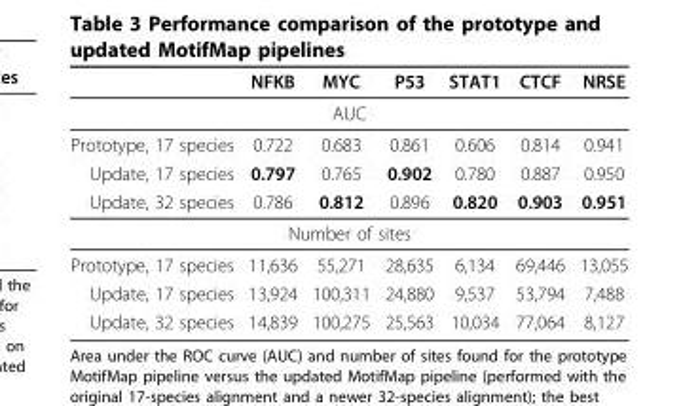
<table><thead><tr><td></td><td>NFKB</td><td>MYC</td><td>P53</td><td>STAT1</td><td>CTCF</td><td>NRSE</td></tr></thead><tbody><tr><td colspan="7">AUC</td></tr><tr><td>Prototype, 17 species</td><td>0.722</td><td>0.683</td><td>0.861</td><td>0.606</td><td>0.814</td><td>0.941</td></tr><tr><td>Update, 17 species</td><td>0.797</td><td>0.765</td><td>0.902</td><td>0.780</td><td>0.887</td><td>0.950</td></tr><tr><td>Update, 32 species</td><td>0.786</td><td>0.812</td><td>0.896</td><td>0.820</td><td>0.903</td><td>0.951</td></tr><tr><td colspan="7">Number of sites</td></tr><tr><td>Prototype, 17 species</td><td>11,636</td><td>55,271</td><td>28,635</td><td>6,134</td><td>69,446</td><td>13,055</td></tr><tr><td>Update, 17 species</td><td>13,924</td><td>100,311</td><td>24,880</td><td>9,537</td><td>53,794</td><td>7,488</td></tr><tr><td>Update, 32 species</td><td>14,839</td><td>100,275</td><td>25,563</td><td>10,034</td><td>77,064</td><td>8,127</td></tr></tbody></table>